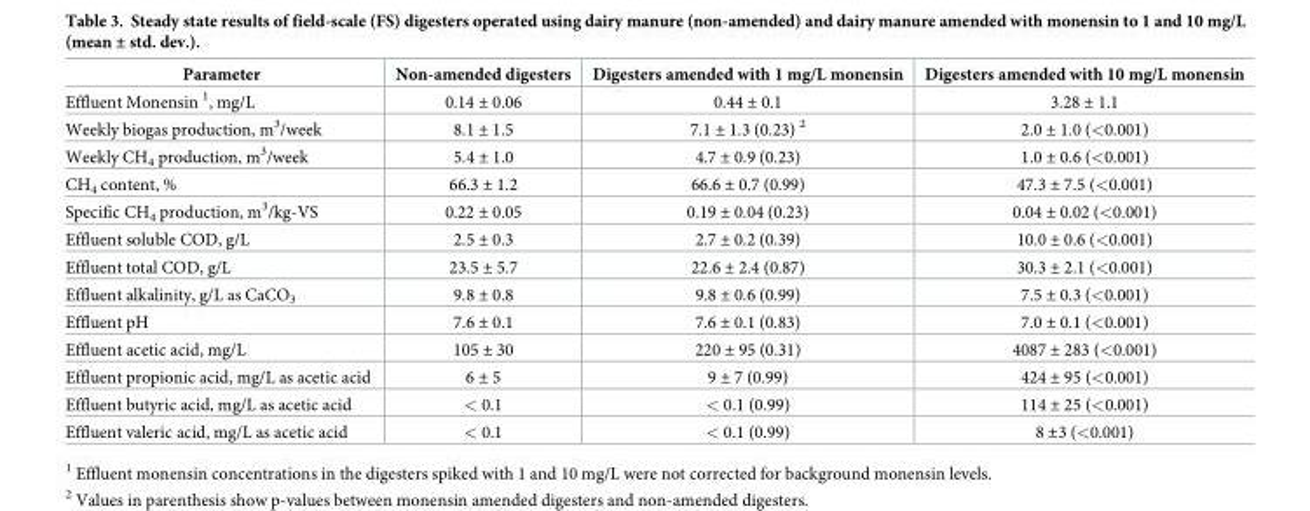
<table><thead><tr><td>Parameter</td><td>Non-amended digesters</td><td>Digesters amended with 1 mg/L monensin</td><td>Digesters amended with 10 mg/L monensin</td></tr></thead><tbody><tr><td>Effluent Monensin <sup>1</sup>, mg/L</td><td>0.14 ± 0.06</td><td>0.44 ± 0.1</td><td>3.28 ± 1.1</td></tr><tr><td>Weekly biogas production, m<sup>3</sup>/week</td><td>8.1 ± 1.5</td><td>7.1 ± 1.3 (0.23) <sup>2</sup></td><td>2.0 ± 1.0 (&lt;0.001)</td></tr><tr><td>Weekly CH<sub>4</sub> production, m<sup>3</sup>/week</td><td>5.4 ± 1.0</td><td>4.7 ± 0.9 (0.23)</td><td>1.0 ± 0.6 (&lt;0.001)</td></tr><tr><td>CH<sub>4</sub> content, %</td><td>66.3 ± 1.2</td><td>66.6 ± 0.7 (0.99)</td><td>47.3 ± 7.5 (&lt;0.001)</td></tr><tr><td>Specific CH<sub>4</sub> production, m<sup>3</sup>/kg-VS</td><td>0.22 ± 0.05</td><td>0.19 ± 0.04 (0.23)</td><td>0.04 ± 0.02 (&lt;0.001)</td></tr><tr><td>Effluent soluble COD, g/L</td><td>2.5 ± 0.3</td><td>2.7 ± 0.2 (0.39)</td><td>10.0 ± 0.6 (&lt;0.001)</td></tr><tr><td>Effluent total COD, g/L</td><td>23.5 ± 5.7</td><td>22.6 ± 2.4 (0.87)</td><td>30.3 ± 2.1 (&lt;0.001)</td></tr><tr><td>Effluent alkalinity, g/L as CaCO<sub>3</sub></td><td>9.8 ± 0.8</td><td>9.8 ± 0.6 (0.99)</td><td>7.5 ± 0.3 (&lt;0.001)</td></tr><tr><td>Effluent pH</td><td>7.6 ± 0.1</td><td>7.6 ± 0.1 (0.83)</td><td>7.0 ± 0.1 (&lt;0.001)</td></tr><tr><td>Effluent acetic acid, mg/L</td><td>105 ± 30</td><td>220 ± 95 (0.31)</td><td>4087 ± 283 (&lt;0.001)</td></tr><tr><td>Effluent propionic acid, mg/L as acetic acid</td><td>6 ± 5</td><td>9 ± 7 (0.99)</td><td>424 ± 95 (&lt;0.001)</td></tr><tr><td>Effluent butyric acid, mg/L as acetic acid</td><td>&lt; 0.1</td><td>&lt; 0.1 (0.99)</td><td>114 ± 25 (&lt;0.001)</td></tr><tr><td>Effluent valeric acid, mg/L as acetic acid</td><td>&lt; 0.1</td><td>&lt; 0.1 (0.99)</td><td>8 ±3 (&lt;0.001)</td></tr></tbody></table>